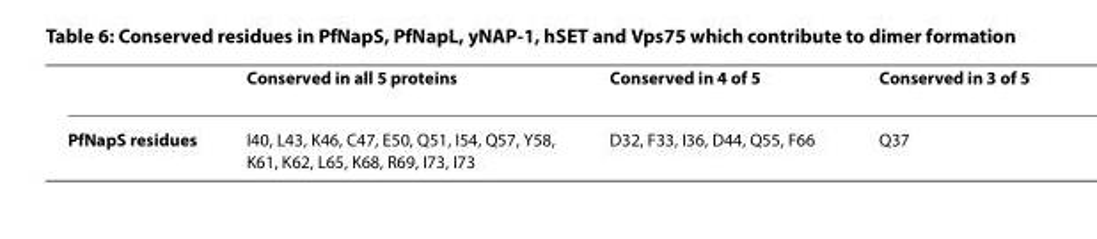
<table><thead><tr><td></td><td>Conserved in all 5 proteins</td><td>Conserved in 4 of 5</td><td>Conserved in 3 of 5</td></tr></thead><tbody><tr><td>PfNapS residues</td><td>I40, L43, K46, C47, E50, Q51, I54, Q57, Y58, K61, K62, L65, K68, R69, I73, I73</td><td>D32, F33, I36, D44, Q55, F66</td><td>Q37</td></tr></tbody></table>